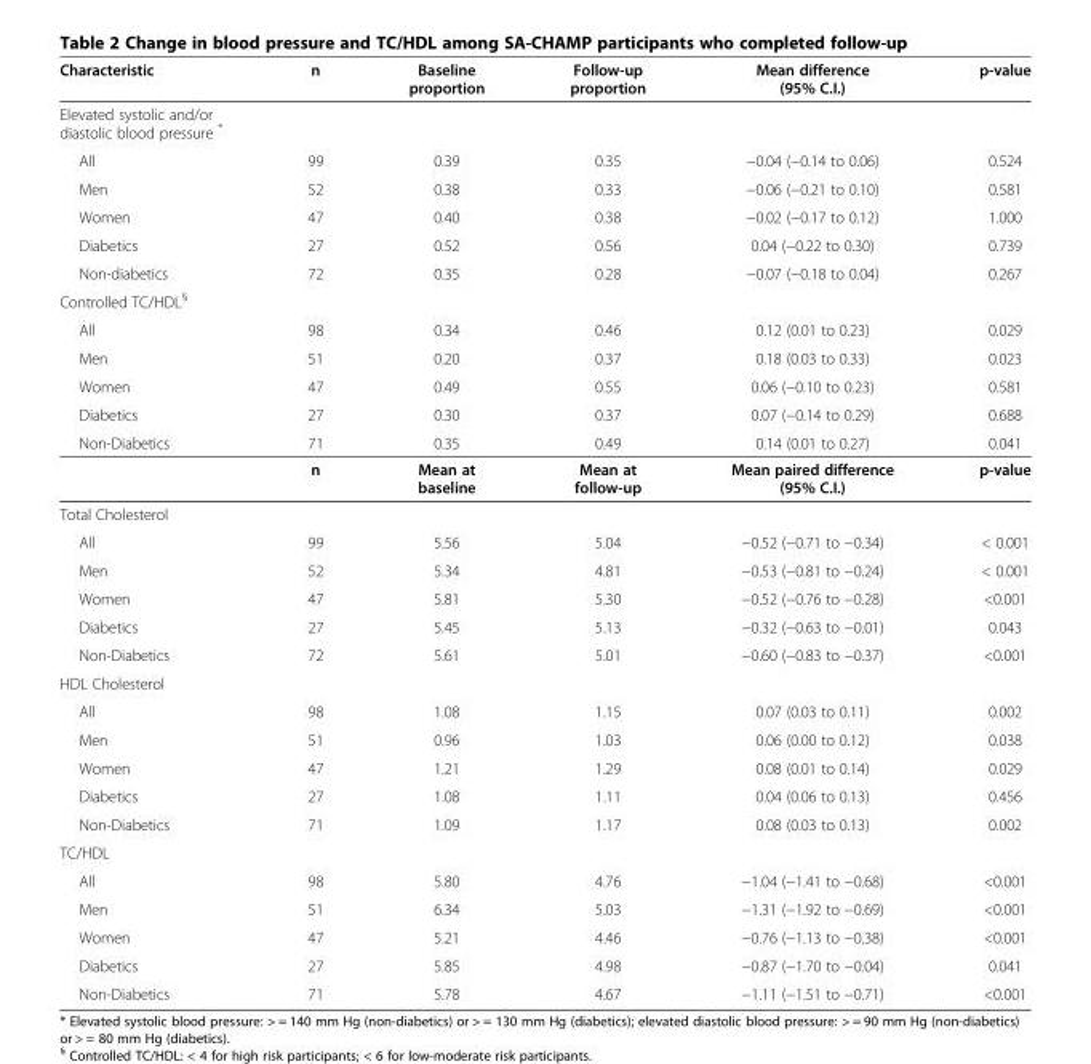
<table><thead><tr><td>Characteristic</td><td>n</td><td>Baseline proportion</td><td>Follow-up proportion</td><td>Mean difference (95% C.I.)</td><td>p-value</td></tr></thead><tbody><tr><td colspan="6">Elevated systolic and/or diastolic blood pressure *</td></tr><tr><td>All</td><td>99</td><td>0.39</td><td>0.35</td><td>−0.04 (−0.14 to 0.06)</td><td>0.524</td></tr><tr><td>Men</td><td>52</td><td>0.38</td><td>0.33</td><td>−0.06 (−0.21 to 0.10)</td><td>0.581</td></tr><tr><td>Women</td><td>47</td><td>0.40</td><td>0.38</td><td>−0.02 (−0.17 to 0.12)</td><td>1.000</td></tr><tr><td>Diabetics</td><td>27</td><td>0.52</td><td>0.56</td><td>0.04 (−0.22 to 0.30)</td><td>0.739</td></tr><tr><td>Non-diabetics</td><td>72</td><td>0.35</td><td>0.28</td><td>−0.07 (−0.18 to 0.04)</td><td>0.267</td></tr><tr><td colspan="6">Controlled TC/HDL<sup>§</sup></td></tr><tr><td>All</td><td>98</td><td>0.34</td><td>0.46</td><td>0.12 (0.01 to 0.23)</td><td>0.029</td></tr><tr><td>Men</td><td>51</td><td>0.20</td><td>0.37</td><td>0.18 (0.03 to 0.33)</td><td>0.023</td></tr><tr><td>Women</td><td>47</td><td>0.49</td><td>0.55</td><td>0.06 (−0.10 to 0.23)</td><td>0.581</td></tr><tr><td>Diabetics</td><td>27</td><td>0.30</td><td>0.37</td><td>0.07 (−0.14 to 0.29)</td><td>0.688</td></tr><tr><td rowspan="2">Non-Diabetics</td><td>71</td><td>0.35</td><td>0.49</td><td>0.14 (0.01 to 0.27)</td><td>0.041</td></tr><tr><td>n</td><td>Mean at baseline</td><td>Mean at follow-up</td><td>Mean paired difference (95% C.I.)</td><td>p-value</td></tr><tr><td colspan="6">Total Cholesterol</td></tr><tr><td>All</td><td>99</td><td>5.56</td><td>5.04</td><td>−0.52 (−0.71 to −0.34)</td><td>&lt; 0.001</td></tr><tr><td>Men</td><td>52</td><td>5.34</td><td>4.81</td><td>−0.53 (−0.81 to −0.24)</td><td>&lt; 0.001</td></tr><tr><td>Women</td><td>47</td><td>5.81</td><td>5.30</td><td>−0.52 (−0.76 to −0.28)</td><td>&lt;0.001</td></tr><tr><td>Diabetics</td><td>27</td><td>5.45</td><td>5.13</td><td>−0.32 (−0.63 to −0.01)</td><td>0.043</td></tr><tr><td>Non-Diabetics</td><td>72</td><td>5.61</td><td>5.01</td><td>−0.60 (−0.83 to −0.37)</td><td>&lt;0.001</td></tr><tr><td colspan="6">HDL Cholesterol</td></tr><tr><td>All</td><td>98</td><td>1.08</td><td>1.15</td><td>0.07 (0.03 to 0.11)</td><td>0.002</td></tr><tr><td>Men</td><td>51</td><td>0.96</td><td>1.03</td><td>0.06 (0.00 to 0.12)</td><td>0.038</td></tr><tr><td>Women</td><td>47</td><td>1.21</td><td>1.29</td><td>0.08 (0.01 to 0.14)</td><td>0.029</td></tr><tr><td>Diabetics</td><td>27</td><td>1.08</td><td>1.11</td><td>0.04 (0.06 to 0.13)</td><td>0.456</td></tr><tr><td>Non-Diabetics</td><td>71</td><td>1.09</td><td>1.17</td><td>0.08 (0.03 to 0.13)</td><td>0.002</td></tr><tr><td colspan="6">TC/HDL</td></tr><tr><td>All</td><td>98</td><td>5.80</td><td>4.76</td><td>−1.04 (−1.41 to −0.68)</td><td>&lt;0.001</td></tr><tr><td>Men</td><td>51</td><td>6.34</td><td>5.03</td><td>−1.31 (−1.92 to −0.69)</td><td>&lt;0.001</td></tr><tr><td>Women</td><td>47</td><td>5.21</td><td>4.46</td><td>−0.76 (−1.13 to −0.38)</td><td>&lt;0.001</td></tr><tr><td>Diabetics</td><td>27</td><td>5.85</td><td>4.98</td><td>−0.87 (−1.70 to −0.04)</td><td>0.041</td></tr><tr><td>Non-Diabetics</td><td>71</td><td>5.78</td><td>4.67</td><td>−1.11 (−1.51 to −0.71)</td><td>&lt;0.001</td></tr></tbody></table>